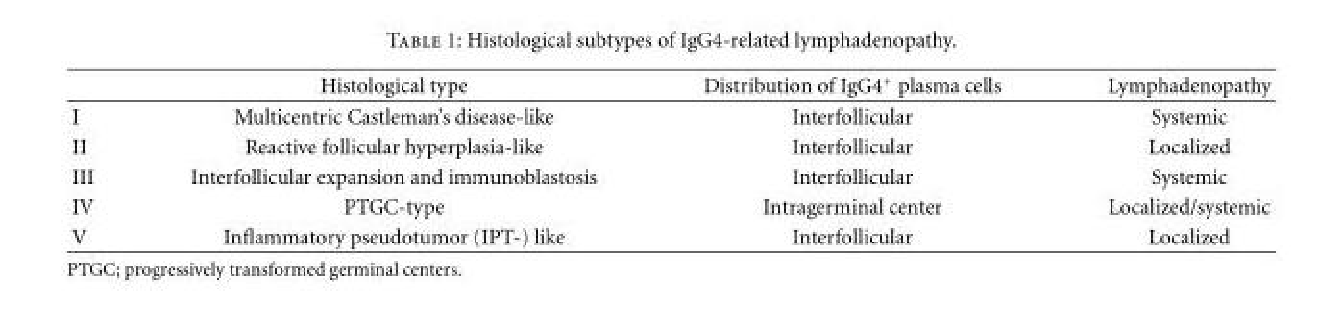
<table><thead><tr><td></td><td>Histological type</td><td>Distribution of IgG4<sup>+</sup> plasma cells</td><td>Lymphadenopathy</td></tr></thead><tbody><tr><td>I</td><td>Multicentric Castleman’s disease-like</td><td>Interfollicular</td><td>Systemic</td></tr><tr><td>II</td><td>Reactive follicular hyperplasia-like</td><td>Interfollicular</td><td>Localized</td></tr><tr><td>III</td><td>Interfollicular expansion and immunoblastosis</td><td>Interfollicular</td><td>Systemic</td></tr><tr><td>IV</td><td>PTGC-type</td><td>Intragerminal center</td><td>Localized/systemic</td></tr><tr><td>V</td><td>Inflammatory pseudotumor (IPT-) like</td><td>Interfollicular</td><td>Localized</td></tr></tbody></table>